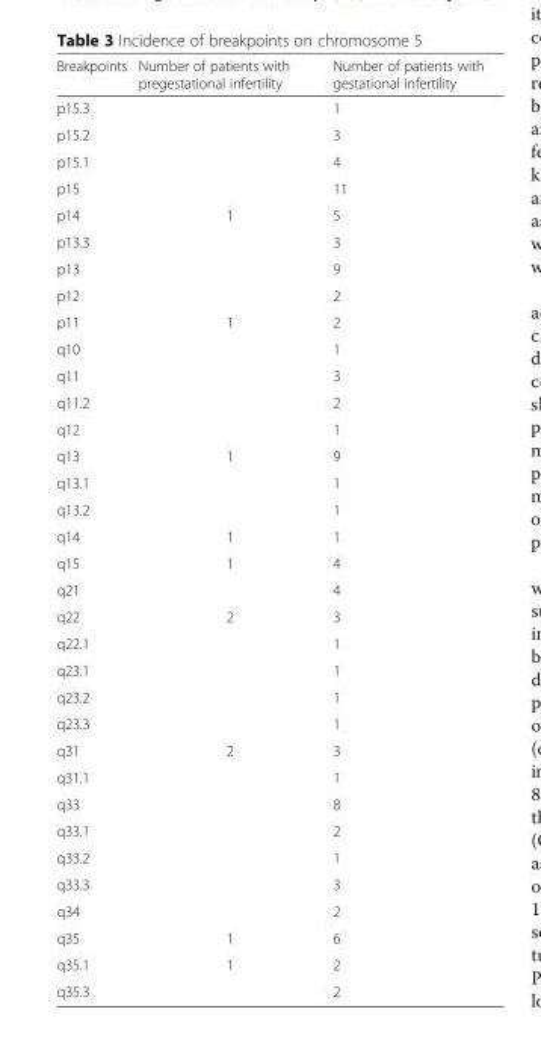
<table><thead><tr><td>Breakpoints</td><td>Number of patients with pregestational infertility</td><td>Number of patients with gestational infertility</td></tr></thead><tbody><tr><td>p15.3</td><td></td><td>1</td></tr><tr><td>p15.2</td><td></td><td>3</td></tr><tr><td>p15.1</td><td></td><td>4</td></tr><tr><td>p15</td><td></td><td>11</td></tr><tr><td>p14</td><td>1</td><td>5</td></tr><tr><td>p13.3</td><td></td><td>3</td></tr><tr><td>p13</td><td></td><td>9</td></tr><tr><td>p12</td><td></td><td>2</td></tr><tr><td>p11</td><td>1</td><td>2</td></tr><tr><td>q10</td><td></td><td>1</td></tr><tr><td>q11</td><td></td><td>3</td></tr><tr><td>q11.2</td><td></td><td>2</td></tr><tr><td>q12</td><td></td><td>1</td></tr><tr><td>q13</td><td>1</td><td>9</td></tr><tr><td>q13.1</td><td></td><td>1</td></tr><tr><td>q13.2</td><td></td><td>1</td></tr><tr><td>q14</td><td>1</td><td>1</td></tr><tr><td>q15</td><td>1</td><td>4</td></tr><tr><td>q21</td><td></td><td>4</td></tr><tr><td>q22</td><td>2</td><td>3</td></tr><tr><td>q22.1</td><td></td><td>1</td></tr><tr><td>q23.1</td><td></td><td>1</td></tr><tr><td>q23.2</td><td></td><td>1</td></tr><tr><td>q23.3</td><td></td><td>1</td></tr><tr><td>q31</td><td>2</td><td>3</td></tr><tr><td>q31.1</td><td></td><td>1</td></tr><tr><td>q33</td><td></td><td>8</td></tr><tr><td>q33.1</td><td></td><td>2</td></tr><tr><td>q33.2</td><td></td><td>1</td></tr><tr><td>q33.3</td><td></td><td>3</td></tr><tr><td>q34</td><td></td><td>2</td></tr><tr><td>q35</td><td>1</td><td>6</td></tr><tr><td>q35.1</td><td>1</td><td>2</td></tr><tr><td>q35.3</td><td></td><td>2</td></tr></tbody></table>